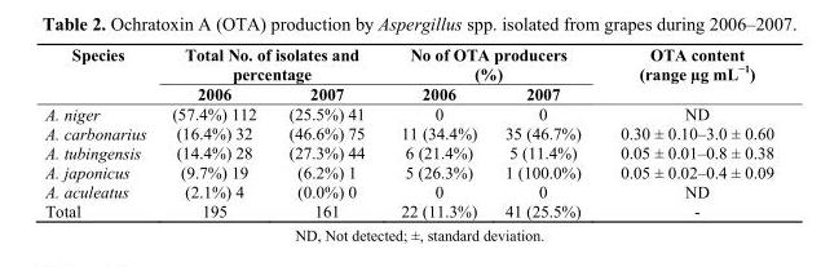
<table><thead><tr><td rowspan="2">Species</td><td colspan="2">Total No. of isolates and percentage</td><td colspan="2">No of OTA producers (%)</td><td rowspan="2">OTA content (range µg mL<sup>−1</sup>)</td></tr><tr><td>2006</td><td>2007</td><td>2006</td><td>2007</td></tr></thead><tbody><tr><td>A. niger</td><td>(57.4%) 112</td><td>(25.5%) 41</td><td>0</td><td>0</td><td>ND</td></tr><tr><td>A. carbonarius</td><td>(16.4%) 32</td><td>(46.6%) 75</td><td>11 (34.4%)</td><td>35 (46.7%)</td><td>0.30 ± 0.10–3.0 ± 0.60</td></tr><tr><td>A. tubingensis</td><td>(14.4%) 28</td><td>(27.3%) 44</td><td>6 (21.4%)</td><td>5 (11.4%)</td><td>0.05 ± 0.01–0.8 ± 0.38</td></tr><tr><td>A. japonicus</td><td>(9.7%) 19</td><td>(6.2%) 1</td><td>5 (26.3%)</td><td>1 (100.0%)</td><td>0.05 ± 0.02–0.4 ± 0.09</td></tr><tr><td>A. aculeatus</td><td>(2.1%) 4</td><td>(0.0%) 0</td><td>0</td><td>0</td><td>ND</td></tr><tr><td>Total</td><td>195</td><td>161</td><td>22 (11.3%)</td><td>41 (25.5%)</td><td>-</td></tr></tbody></table>